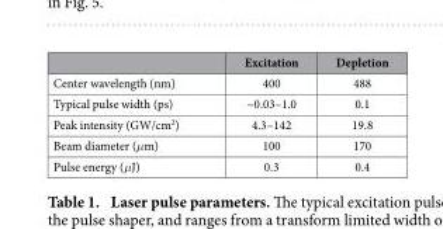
<table><thead><tr><td></td><td>Excitation</td><td>Depletion</td></tr></thead><tbody><tr><td>Center wavelength (nm)</td><td>400</td><td>488</td></tr><tr><td>Typical pulse width (ps)</td><td>~0.03–1.0</td><td>0.1</td></tr><tr><td>Peak intensity (GW/cm<sup>2</sup>)</td><td>4.3–142</td><td>19.8</td></tr><tr><td>Beam diameter (μm)</td><td>100</td><td>170</td></tr><tr><td>Pulse energy (μJ)</td><td>0.3</td><td>0.4</td></tr></tbody></table>